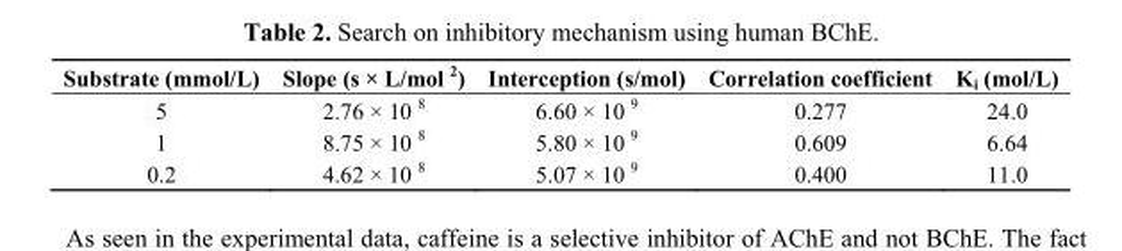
<table><thead><tr><td>Substrate (mmol/L)</td><td>Slope (s × L/mol <sup>2</sup>)</td><td>Interception (s/mol)</td><td>Correlation coefficient</td><td>K<sub>i</sub> (mol/L)</td></tr></thead><tbody><tr><td>5</td><td>2.76 × 10 <sup>8</sup></td><td>6.60 × 10 <sup>9</sup></td><td>0.277</td><td>24.0</td></tr><tr><td>1</td><td>8.75 × 10 <sup>8</sup></td><td>5.80 × 10 <sup>9</sup></td><td>0.609</td><td>6.64</td></tr><tr><td>0.2</td><td>4.62 × 10 <sup>8</sup></td><td>5.07 × 10 <sup>9</sup></td><td>0.400</td><td>11.0</td></tr></tbody></table>